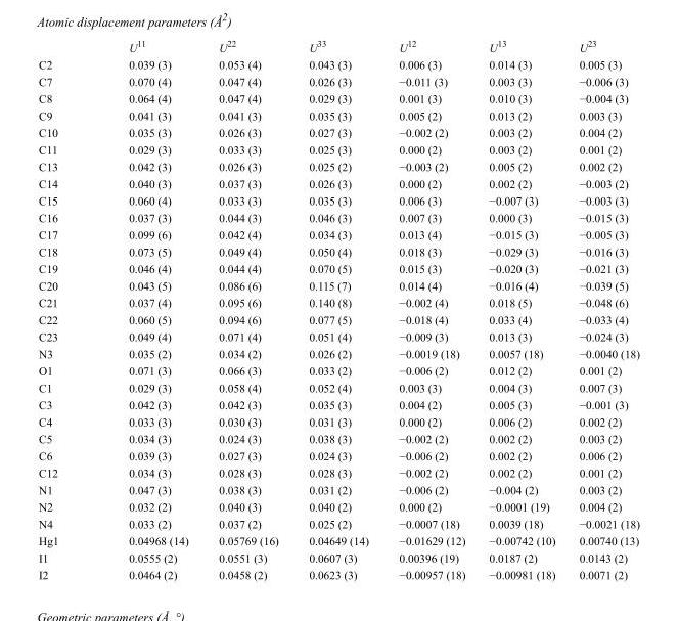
<table><thead><tr><td></td><td>U<sup>11</sup></td><td>U<sup>22</sup></td><td>U<sup>33</sup></td><td>U<sup>12</sup></td><td>U<sup>13</sup></td><td>U<sup>23</sup></td></tr></thead><tbody><tr><td>C2</td><td>0.039 (3)</td><td>0.053 (4)</td><td>0.043 (3)</td><td>0.006 (3)</td><td>0.014 (3)</td><td>0.005 (3)</td></tr><tr><td>C7</td><td>0.070 (4)</td><td>0.047 (4)</td><td>0.026 (3)</td><td>−0.011 (3)</td><td>0.003 (3)</td><td>−0.006 (3)</td></tr><tr><td>C8</td><td>0.064 (4)</td><td>0.047 (4)</td><td>0.029 (3)</td><td>0.001 (3)</td><td>0.010 (3)</td><td>−0.004 (3)</td></tr><tr><td>C9</td><td>0.041 (3)</td><td>0.041 (3)</td><td>0.035 (3)</td><td>0.005 (2)</td><td>0.013 (2)</td><td>0.003 (3)</td></tr><tr><td>C10</td><td>0.035 (3)</td><td>0.026 (3)</td><td>0.027 (3)</td><td>−0.002 (2)</td><td>0.003 (2)</td><td>0.004 (2)</td></tr><tr><td>C11</td><td>0.029 (3)</td><td>0.033 (3)</td><td>0.025 (3)</td><td>0.000 (2)</td><td>0.003 (2)</td><td>0.001 (2)</td></tr><tr><td>C13</td><td>0.042 (3)</td><td>0.026 (3)</td><td>0.025 (2)</td><td>−0.003 (2)</td><td>0.005 (2)</td><td>0.002 (2)</td></tr><tr><td>C14</td><td>0.040 (3)</td><td>0.037 (3)</td><td>0.026 (3)</td><td>0.000 (2)</td><td>0.002 (2)</td><td>−0.003 (2)</td></tr><tr><td>C15</td><td>0.060 (4)</td><td>0.033 (3)</td><td>0.035 (3)</td><td>0.006 (3)</td><td>−0.007 (3)</td><td>−0.003 (3)</td></tr><tr><td>C16</td><td>0.037 (3)</td><td>0.044 (3)</td><td>0.046 (3)</td><td>0.007 (3)</td><td>0.000 (3)</td><td>−0.015 (3)</td></tr><tr><td>C17</td><td>0.099 (6)</td><td>0.042 (4)</td><td>0.034 (3)</td><td>0.013 (4)</td><td>−0.015 (3)</td><td>−0.005 (3)</td></tr><tr><td>C18</td><td>0.073 (5)</td><td>0.049 (4)</td><td>0.050 (4)</td><td>0.018 (3)</td><td>−0.029 (3)</td><td>−0.016 (3)</td></tr><tr><td>C19</td><td>0.046 (4)</td><td>0.044 (4)</td><td>0.070 (5)</td><td>0.015 (3)</td><td>−0.020 (3)</td><td>−0.021 (3)</td></tr><tr><td>C20</td><td>0.043 (5)</td><td>0.086 (6)</td><td>0.115 (7)</td><td>0.014 (4)</td><td>−0.016 (4)</td><td>−0.039 (5)</td></tr><tr><td>C21</td><td>0.037 (4)</td><td>0.095 (6)</td><td>0.140 (8)</td><td>−0.002 (4)</td><td>0.018 (5)</td><td>−0.048 (6)</td></tr><tr><td>C22</td><td>0.060 (5)</td><td>0.094 (6)</td><td>0.077 (5)</td><td>−0.018 (4)</td><td>0.033 (4)</td><td>−0.033 (4)</td></tr><tr><td>C23</td><td>0.049 (4)</td><td>0.071 (4)</td><td>0.051 (4)</td><td>−0.009 (3)</td><td>0.013 (3)</td><td>−0.024 (3)</td></tr><tr><td>N3</td><td>0.035 (2)</td><td>0.034 (2)</td><td>0.026 (2)</td><td>−0.0019 (18)</td><td>0.0057 (18)</td><td>−0.0040 (18)</td></tr><tr><td>O1</td><td>0.071 (3)</td><td>0.066 (3)</td><td>0.033 (2)</td><td>−0.006 (2)</td><td>0.012 (2)</td><td>0.001 (2)</td></tr><tr><td>C1</td><td>0.029 (3)</td><td>0.058 (4)</td><td>0.052 (4)</td><td>0.003 (3)</td><td>0.004 (3)</td><td>0.007 (3)</td></tr><tr><td>C3</td><td>0.042 (3)</td><td>0.042 (3)</td><td>0.035 (3)</td><td>0.004 (2)</td><td>0.005 (3)</td><td>−0.001 (3)</td></tr><tr><td>C4</td><td>0.033 (3)</td><td>0.030 (3)</td><td>0.031 (3)</td><td>0.000 (2)</td><td>0.006 (2)</td><td>0.002 (2)</td></tr><tr><td>C5</td><td>0.034 (3)</td><td>0.024 (3)</td><td>0.038 (3)</td><td>−0.002 (2)</td><td>0.002 (2)</td><td>0.003 (2)</td></tr><tr><td>C6</td><td>0.039 (3)</td><td>0.027 (3)</td><td>0.024 (3)</td><td>−0.006 (2)</td><td>0.002 (2)</td><td>0.006 (2)</td></tr><tr><td>C12</td><td>0.034 (3)</td><td>0.028 (3)</td><td>0.028 (3)</td><td>−0.002 (2)</td><td>0.002 (2)</td><td>0.001 (2)</td></tr><tr><td>N1</td><td>0.047 (3)</td><td>0.038 (3)</td><td>0.031 (2)</td><td>−0.006 (2)</td><td>−0.004 (2)</td><td>0.003 (2)</td></tr><tr><td>N2</td><td>0.032 (2)</td><td>0.040 (3)</td><td>0.040 (2)</td><td>0.000 (2)</td><td>−0.0001 (19)</td><td>0.004 (2)</td></tr><tr><td>N4</td><td>0.033 (2)</td><td>0.037 (2)</td><td>0.025 (2)</td><td>−0.0007 (18)</td><td>0.0039 (18)</td><td>−0.0021 (18)</td></tr><tr><td>Hg1</td><td>0.04968 (14)</td><td>0.05769 (16)</td><td>0.04649 (14)</td><td>−0.01629 (12)</td><td>−0.00742 (10)</td><td>0.00740 (13)</td></tr><tr><td>I1</td><td>0.0555 (2)</td><td>0.0551 (3)</td><td>0.0607 (3)</td><td>0.00396 (19)</td><td>0.0187 (2)</td><td>0.0143 (2)</td></tr><tr><td>I2</td><td>0.0464 (2)</td><td>0.0458 (2)</td><td>0.0623 (3)</td><td>−0.00957 (18)</td><td>−0.00981 (18)</td><td>0.0071 (2)</td></tr></tbody></table>